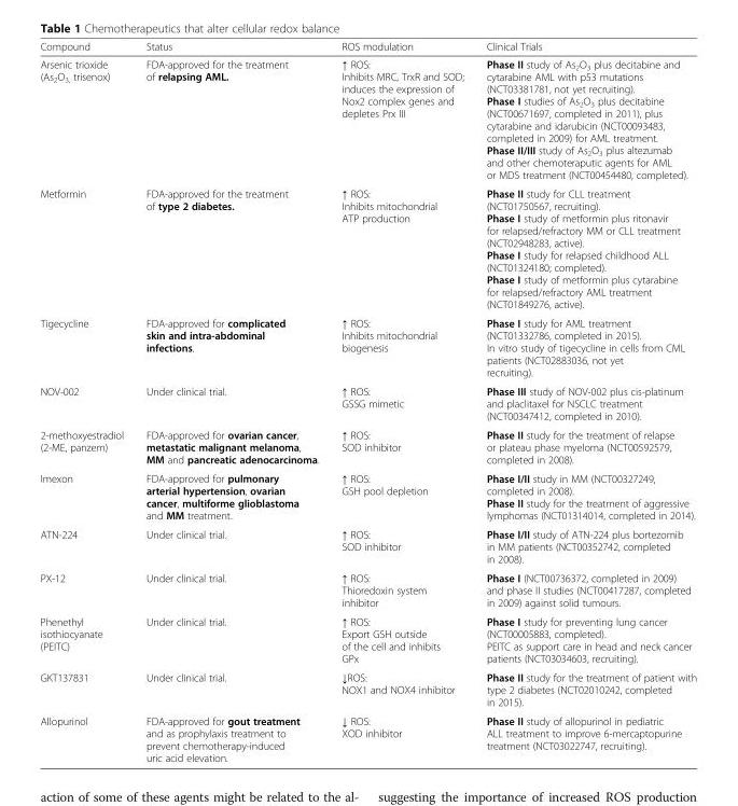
<table><thead><tr><td>Compound</td><td>Status</td><td>ROS modulation</td><td>Clinical Trials</td></tr></thead><tbody><tr><td>Arsenic trioxide (As<sub>2</sub>O<sub>3,</sub> trisenox)</td><td>FDA-approved for the treatment of relapsing AML.</td><td>↑ ROS: Inhibits MRC, TrxR and SOD; induces the expression of Nox2 complex genes and depletes Prx III</td><td>Phase II study of As<sub>2</sub>O<sub>3</sub> plus decitabine and cytarabine AML with p53 mutations (NCT03381781, not yet recruiting). Phase I studies of As<sub>2</sub>O<sub>3</sub> plus decitabine (NCT00671697, completed in 2011), plus cytarabine and idarubicin (NCT00093483, completed in 2009) for AML treatment. Phase II/III study of As<sub>2</sub>O<sub>3</sub> plus altezumab and other chemoteraputic agents for AML or MDS treatment (NCT00454480, completed).</td></tr><tr><td>Metformin</td><td>FDA-approved for the treatment of type 2 diabetes.</td><td>↑ ROS: Inhibits mitochondrial ATP production</td><td>Phase II study for CLL treatment (NCT01750567, recruiting). Phase I study of metformin plus ritonavir for relapsed/refractory MM or CLL treatment (NCT02948283, active). Phase I study for relapsed childhood ALL (NCT01324180; completed). Phase I study of metformin plus cytarabine for relapsed/refractory AML treatment (NCT01849276, active).</td></tr><tr><td>Tigecycline</td><td>FDA-approved for complicated skin and intra-abdominal infections.</td><td>↑ ROS: Inhibits mitochondrial biogenesis</td><td>Phase I study for AML treatment (NCT01332786, completed in 2015). In vitro study of tigecycline in cells from CML patients (NCT02883036, not yet recruiting).</td></tr><tr><td>NOV-002</td><td>Under clinical trial.</td><td>↑ ROS: GSSG mimetic</td><td>Phase III study of NOV-002 plus cis-platinum and placlitaxel for NSCLC treatment (NCT00347412, completed in 2010).</td></tr><tr><td>2-methoxyestradiol (2-ME, panzem)</td><td>FDA-approved for ovarian cancer, metastatic malignant melanoma, MM and pancreatic adenocarcinoma.</td><td>↑ ROS: SOD inhibitor</td><td>Phase II study for the treatment of relapse or plateau phase myeloma (NCT00592579, completed in 2008).</td></tr><tr><td>Imexon</td><td>FDA-approved for pulmonary arterial hypertension, ovarian cancer, multiforme glioblastoma and MM treatment.</td><td>↑ ROS: GSH pool depletion</td><td>Phase I/II study in MM (NCT00327249, completed in 2008). Phase II study for the treatment of aggressive lymphomas (NCT01314014, completed in 2014).</td></tr><tr><td>ATN-224</td><td>Under clinical trial.</td><td>↑ ROS: SOD inhibitor</td><td>Phase I/II study of ATN-224 plus bortezomib in MM patients (NCT00352742, completed in 2008).</td></tr><tr><td>PX-12</td><td>Under clinical trial.</td><td>↑ ROS: Thioredoxin system inhibitor</td><td>Phase I (NCT00736372, completed in 2009) and phase II studies (NCT00417287, completed in 2009) against solid tumours.</td></tr><tr><td>Phenethyl isothiocyanate (PEITC)</td><td>Under clinical trial.</td><td>↑ ROS: Export GSH outside of the cell and inhibits GPx</td><td>Phase I study for preventing lung cancer (NCT00005883, completed). PEITC as support care in head and neck cancer patients (NCT03034603, recruiting).</td></tr><tr><td>GKT137831</td><td>Under clinical trial.</td><td>↓ROS: NOX1 and NOX4 inhibitor</td><td>Phase II study for the treatment of patient with type 2 diabetes (NCT02010242, completed in 2015).</td></tr><tr><td>Allopurinol</td><td>FDA-approved for gout treatment and as prophylaxis treatment to prevent chemotherapy-induced uric acid elevation.</td><td>↓ ROS: XOD inhibitor</td><td>Phase II study of allopurinol in pediatric ALL treatment to improve 6-mercaptopurine treatment (NCT03022747, recruiting).</td></tr></tbody></table>